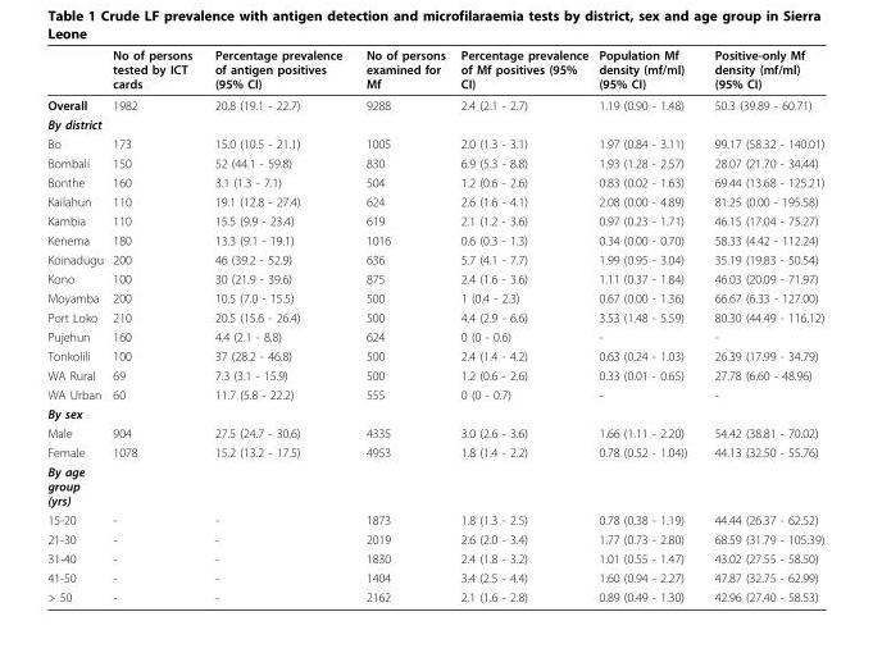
<table><thead><tr><td></td><td>No of persons tested by ICT cards</td><td>Percentage prevalence of antigen positives (95% CI)</td><td>No of persons examined for Mf</td><td>Percentage prevalence of Mf positives (95% CI)</td><td>Population Mf density (mf/ml) (95% CI)</td><td>Positive-only Mf density (mf/ml) (95% CI)</td></tr></thead><tbody><tr><td>Overall</td><td>1982</td><td>20.8 (19.1 - 22.7)</td><td>9288</td><td>2.4 (2.1 - 2.7)</td><td>1.19 (0.90 - 1.48)</td><td>50.3 (39.89 - 60.71)</td></tr><tr><td colspan="7">By district</td></tr><tr><td>Bo</td><td>173</td><td>15.0 (10.5 - 21.1)</td><td>1005</td><td>2.0 (1.3 - 3.1)</td><td>1.97 (0.84 - 3.11)</td><td>99.17 (58.32 - 140.01)</td></tr><tr><td>Bombali</td><td>150</td><td>52 (44.1 - 59.8)</td><td>830</td><td>6.9 (5.3 - 8.8)</td><td>1.93 (1.28 - 2.57)</td><td>28.07 (21.70 - 34.44)</td></tr><tr><td>Bonthe</td><td>160</td><td>3.1 (1.3 - 7.1)</td><td>504</td><td>1.2 (0.6 - 2.6)</td><td>0.83 (0.02 - 1.63)</td><td>69.44 (13.68 - 125.21)</td></tr><tr><td>Kailahun</td><td>110</td><td>19.1 (12.8 - 27.4)</td><td>624</td><td>2.6 (1.6 - 4.1)</td><td>2.08 (0.00 - 4.89)</td><td>81.25 (0.00 - 195.58)</td></tr><tr><td>Kambia</td><td>110</td><td>15.5 (9.9 - 23.4)</td><td>619</td><td>2.1 (1.2 - 3.6)</td><td>0.97 (0.23 - 1.71)</td><td>46.15 (17.04 - 75.27)</td></tr><tr><td>Kenema</td><td>180</td><td>13.3 (9.1 - 19.1)</td><td>1016</td><td>0.6 (0.3 - 1.3)</td><td>0.34 (0.00 - 0.70)</td><td>58.33 (4.42 - 112.24)</td></tr><tr><td>Koinadugu</td><td>200</td><td>46 (39.2 - 52.9)</td><td>636</td><td>5.7 (4.1 - 7.7)</td><td>1.99 (0.95 - 3.04)</td><td>35.19 (19.83 - 50.54)</td></tr><tr><td>Kono</td><td>100</td><td>30 (21.9 - 39.6)</td><td>875</td><td>2.4 (1.6 - 3.6)</td><td>1.11 (0.37 - 1.84)</td><td>46.03 (20.09 - 71.97)</td></tr><tr><td>Moyamba</td><td>200</td><td>10.5 (7.0 - 15.5)</td><td>500</td><td>1 (0.4 - 2.3)</td><td>0.67 (0.00 - 1.36)</td><td>66.67 (6.33 - 127.00)</td></tr><tr><td>Port Loko</td><td>210</td><td>20.5 (15.6 - 26.4)</td><td>500</td><td>4.4 (2.9 - 6.6)</td><td>3.53 (1.48 - 5.59)</td><td>80.30 (44.49 - 116.12)</td></tr><tr><td>Pujehun</td><td>160</td><td>4.4 (2.1 - 8.8)</td><td>624</td><td>0 (0 - 0.6)</td><td>-</td><td>-</td></tr><tr><td>Tonkolili</td><td>100</td><td>37 (28.2 - 46.8)</td><td>500</td><td>2.4 (1.4 - 4.2)</td><td>0.63 (0.24 - 1.03)</td><td>26.39 (17.99 - 34.79)</td></tr><tr><td>WA Rural</td><td>69</td><td>7.3 (3.1 - 15.9)</td><td>500</td><td>1.2 (0.6 - 2.6)</td><td>0.33 (0.01 - 0.65)</td><td>27.78 (6.60 - 48.96)</td></tr><tr><td>WA Urban</td><td>60</td><td>11.7 (5.8 - 22.2)</td><td>555</td><td>0 (0 - 0.7)</td><td>-</td><td>-</td></tr><tr><td colspan="7">By sex</td></tr><tr><td>Male</td><td>904</td><td>27.5 (24.7 - 30.6)</td><td>4335</td><td>3.0 (2.6 - 3.6)</td><td>1.66 (1.11 - 2.20)</td><td>54.42 (38.81 - 70.02)</td></tr><tr><td>Female</td><td>1078</td><td>15.2 (13.2 - 17.5)</td><td>4953</td><td>1.8 (1.4 - 2.2)</td><td>0.78 (0.52 - 1.04))</td><td>44.13 (32.50 - 55.76)</td></tr><tr><td colspan="7">By age group (yrs)</td></tr><tr><td>15-20</td><td>-</td><td>-</td><td>1873</td><td>1.8 (1.3 - 2.5)</td><td>0.78 (0.38 - 1.19)</td><td>44.44 (26.37 - 62.52)</td></tr><tr><td>21-30</td><td>-</td><td>-</td><td>2019</td><td>2.6 (2.0 - 3.4)</td><td>1.77 (0.73 - 2.80)</td><td>68.59 (31.79 - 105.39)</td></tr><tr><td>31-40</td><td>-</td><td>-</td><td>1830</td><td>2.4 (1.8 - 3.2)</td><td>1.01 (0.55 - 1.47)</td><td>43.02 (27.55 - 58.50)</td></tr><tr><td>41-50</td><td>-</td><td>-</td><td>1404</td><td>3.4 (2.5 - 4.4)</td><td>1.60 (0.94 - 2.27)</td><td>47.87 (32.75 - 62.99)</td></tr><tr><td>&gt; 50</td><td>-</td><td>-</td><td>2162</td><td>2.1 (1.6 - 2.8)</td><td>0.89 (0.49 - 1.30)</td><td>42.96 (27.40 - 58.53)</td></tr></tbody></table>